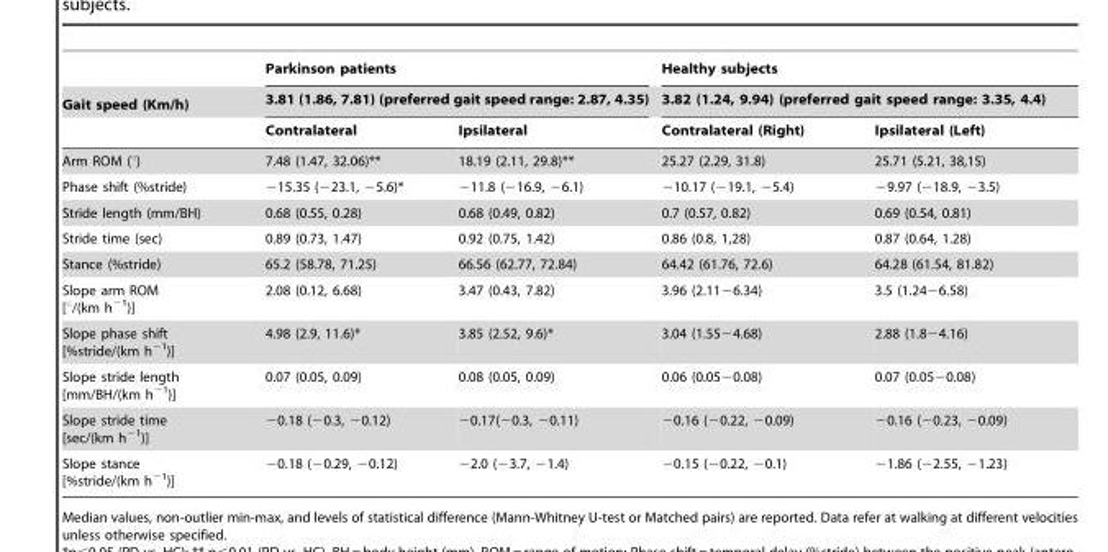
<table><thead><tr><td rowspan="3">Gait speed (Km/h)</td><td rowspan="2" colspan="2">Parkinson patients 3.81 (1.86, 7.81) (preferred gait speed range: 2.87, 4.35)</td><td rowspan="2" colspan="2">Healthy subjects 3.82 (1.24, 9.94) (preferred gait speed range: 3.35, 4.4)</td></tr><tr></tr><tr><td>Contralateral</td><td>Ipsilateral</td><td>Contralateral (Right)</td><td>Ipsilateral (Left)</td></tr></thead><tbody><tr><td>Arm ROM (°)</td><td>7.48 (1.47, 32.06)**</td><td>18.19 (2.11, 29.8)**</td><td>25.27 (2.29, 31.8)</td><td>25.71 (5.21, 38,15)</td></tr><tr><td>Phase shift (%stride)</td><td>−15.35 (−23.1, −5.6)*</td><td>−11.8 (−16.9, −6.1)</td><td>−10.17 (−19.1, −5.4)</td><td>−9.97 (−18.9, −3.5)</td></tr><tr><td>Stride length (mm/BH)</td><td>0.68 (0.55, 0.28)</td><td>0.68 (0.49, 0.82)</td><td>0.7 (0.57, 0.82)</td><td>0.69 (0.54, 0.81)</td></tr><tr><td>Stride time (sec)</td><td>0.89 (0.73, 1.47)</td><td>0.92 (0.75, 1.42)</td><td>0.86 (0.8, 1,28)</td><td>0.87 (0.64, 1.28)</td></tr><tr><td>Stance (%stride)</td><td>65.2 (58.78, 71.25)</td><td>66.56 (62.77, 72.84)</td><td>64.42 (61.76, 72.6)</td><td>64.28 (61.54, 81.82)</td></tr><tr><td>Slope arm ROM [°/(km h<sup>−1</sup>)]</td><td>2.08 (0.12, 6.68)</td><td>3.47 (0.43, 7.82)</td><td>3.96 (2.11−6.34)</td><td>3.5 (1.24−6.58)</td></tr><tr><td>Slope phase shift [%stride/(km h<sup>−1</sup>)]</td><td>4.98 (2.9, 11.6)*</td><td>3.85 (2.52, 9.6)*</td><td>3.04 (1.55−4.68)</td><td>2.88 (1.8−4.16)</td></tr><tr><td>Slope stride length [mm/BH/(km h<sup>−1</sup>)]</td><td>0.07 (0.05, 0.09)</td><td>0.08 (0.05, 0.09)</td><td>0.06 (0.05−0.08)</td><td>0.07 (0.05−0.08)</td></tr><tr><td>Slope stride time [sec/(km h<sup>−1</sup>)]</td><td>−0.18 (−0.3, −0.12)</td><td>−0.17(−0.3, −0.11)</td><td>−0.16 (−0.22, −0.09)</td><td>−0.16 (−0.23, −0.09)</td></tr><tr><td>Slope stance [%stride/(km h<sup>−1</sup>)]</td><td>−0.18 (−0.29, −0.12)</td><td>−2.0 (−3.7, −1.4)</td><td>−0.15 (−0.22, −0.1)</td><td>−1.86 (−2.55, −1.23)</td></tr></tbody></table>